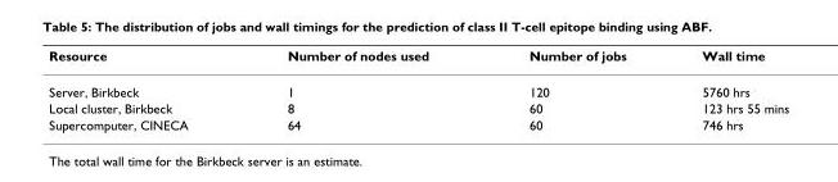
<table><thead><tr><td>Resource</td><td>Number of nodes used</td><td>Number of jobs</td><td>Wall time</td></tr></thead><tbody><tr><td>Server, Birkbeck</td><td>1</td><td>120</td><td>5760 hrs</td></tr><tr><td>Local cluster, Birkbeck</td><td>8</td><td>60</td><td>123 hrs 55 mins</td></tr><tr><td>Supercomputer, CINECA</td><td>64</td><td>60</td><td>746 hrs</td></tr></tbody></table>